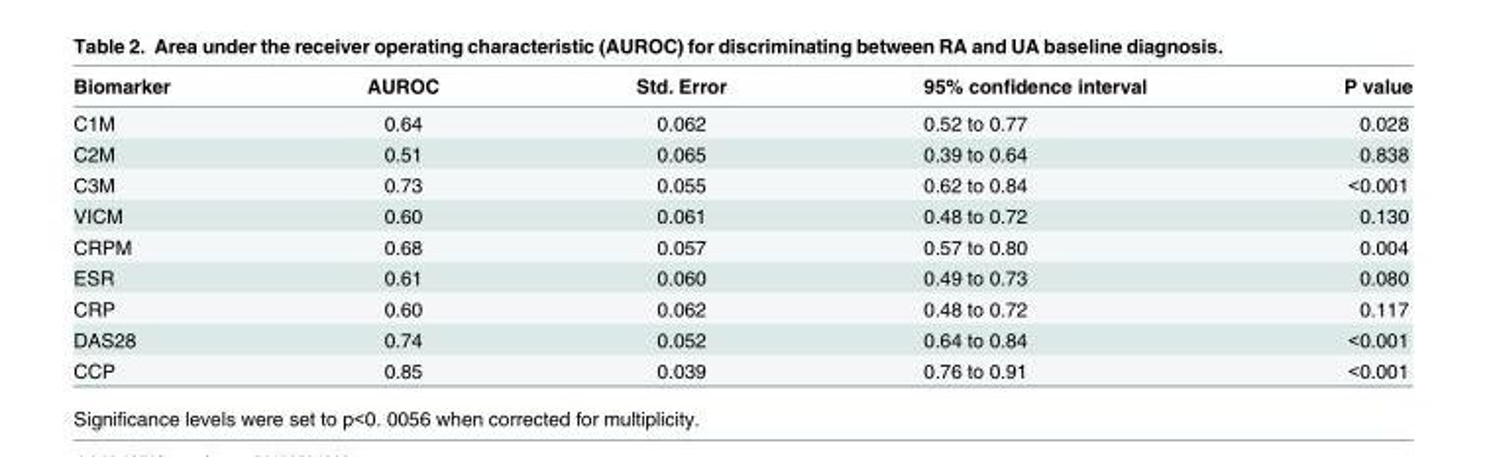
<table><thead><tr><td>Biomarker</td><td>AUROC</td><td>Std. Error</td><td>95% confidence interval</td><td>P value</td></tr></thead><tbody><tr><td>C1M</td><td>0.64</td><td>0.062</td><td>0.52 to 0.77</td><td>0.028</td></tr><tr><td>C2M</td><td>0.51</td><td>0.065</td><td>0.39 to 0.64</td><td>0.838</td></tr><tr><td>C3M</td><td>0.73</td><td>0.055</td><td>0.62 to 0.84</td><td>&lt;0.001</td></tr><tr><td>VICM</td><td>0.60</td><td>0.061</td><td>0.48 to 0.72</td><td>0.130</td></tr><tr><td>CRPM</td><td>0.68</td><td>0.057</td><td>0.57 to 0.80</td><td>0.004</td></tr><tr><td>ESR</td><td>0.61</td><td>0.060</td><td>0.49 to 0.73</td><td>0.080</td></tr><tr><td>CRP</td><td>0.60</td><td>0.062</td><td>0.48 to 0.72</td><td>0.117</td></tr><tr><td>DAS28</td><td>0.74</td><td>0.052</td><td>0.64 to 0.84</td><td>&lt;0.001</td></tr><tr><td>CCP</td><td>0.85</td><td>0.039</td><td>0.76 to 0.91</td><td>&lt;0.001</td></tr></tbody></table>